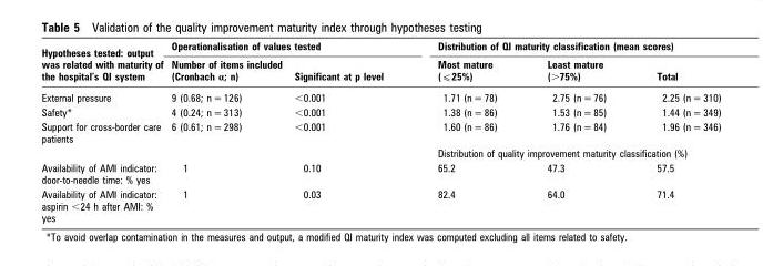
<table><thead><tr><td rowspan="2">Hypotheses tested: output was related with maturity of the hospital’s QI system</td><td colspan="2">Operationalisation of values tested</td><td colspan="3">Distribution of QI maturity classification (mean scores)</td></tr><tr><td>Number of items included (Cronbach α; n)</td><td>Significant at p level</td><td>Most mature (⩽25%)</td><td>Least mature (&gt;75%)</td><td>Total</td></tr></thead><tbody><tr><td>External pressure</td><td>9 (0.68; n = 126)</td><td>&lt;0.001</td><td>1.71 (n = 78)</td><td>2.75 (n = 76)</td><td>2.25 (n = 310)</td></tr><tr><td>Safety*</td><td>4 (0.24; n = 313)</td><td>&lt;0.001</td><td>1.38 (n = 86)</td><td>1.53 (n = 85)</td><td>1.44 (n = 349)</td></tr><tr><td rowspan="2">Support for cross-border care patients</td><td>6 (0.61; n = 298)</td><td>&lt;0.001</td><td>1.60 (n = 86)</td><td>1.76 (n = 84)</td><td>1.96 (n = 346)</td></tr><tr><td></td><td></td><td colspan="3">Distribution of quality improvement maturity classification (%)</td></tr><tr><td>Availability of AMI indicator: door-to-needle time: % yes</td><td>1</td><td>0.10</td><td>65.2</td><td>47.3</td><td>57.5</td></tr><tr><td>Availability of AMI indicator: aspirin &lt;24 h after AMI: % yes</td><td>1</td><td>0.03</td><td>82.4</td><td>64.0</td><td>71.4</td></tr></tbody></table>